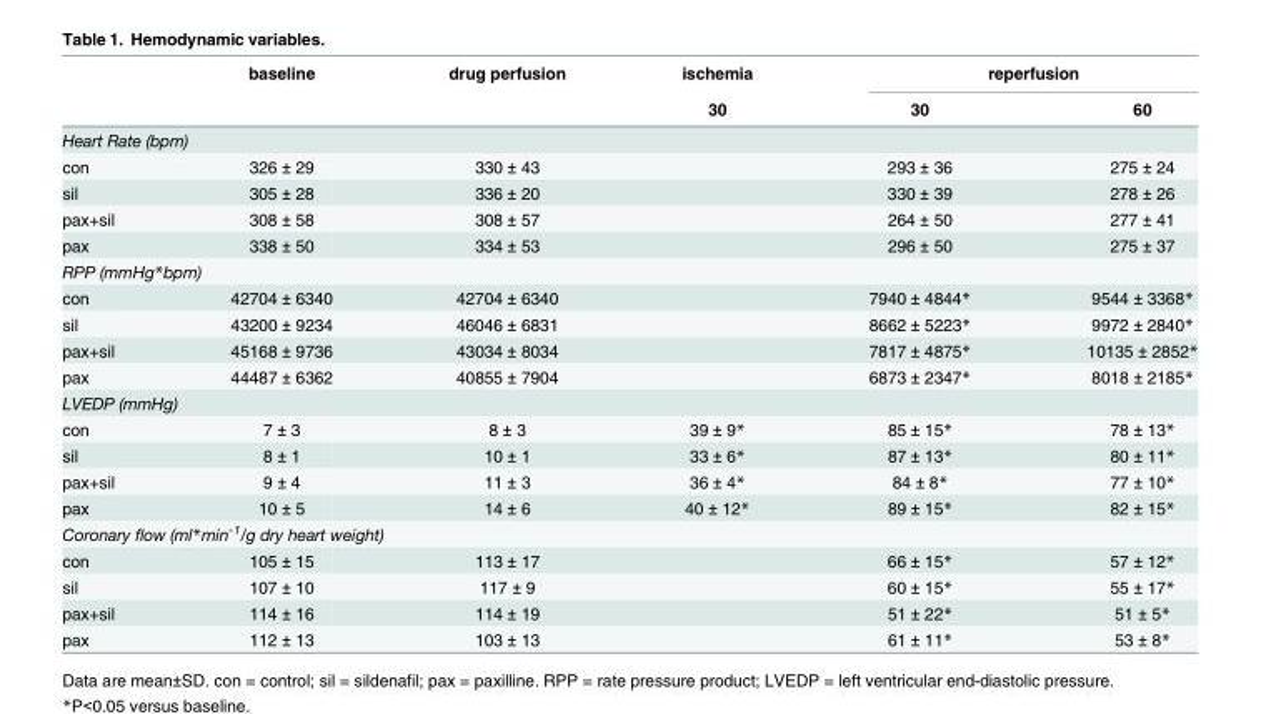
<table><thead><tr><td rowspan="2"></td><td rowspan="2">baseline</td><td rowspan="2">drug perfusion</td><td rowspan="2">ischemia 30</td><td colspan="2">reperfusion</td></tr><tr><td>30</td><td>60</td></tr></thead><tbody><tr><td colspan="6">Heart Rate (bpm)</td></tr><tr><td>con</td><td>326 ± 29</td><td>330 ± 43</td><td></td><td>293 ± 36</td><td>275 ± 24</td></tr><tr><td>sil</td><td>305 ± 28</td><td>336 ± 20</td><td></td><td>330 ± 39</td><td>278 ± 26</td></tr><tr><td>pax+sil</td><td>308 ± 58</td><td>308 ± 57</td><td></td><td>264 ± 50</td><td>277 ± 41</td></tr><tr><td>pax</td><td>338 ± 50</td><td>334 ± 53</td><td></td><td>296 ± 50</td><td>275 ± 37</td></tr><tr><td colspan="6">RPP (mmHg*bpm)</td></tr><tr><td>con</td><td>42704 ± 6340</td><td>42704 ± 6340</td><td></td><td>7940 ± 4844*</td><td>9544 ± 3368*</td></tr><tr><td>sil</td><td>43200 ± 9234</td><td>46046 ± 6831</td><td></td><td>8662 ± 5223*</td><td>9972 ± 2840*</td></tr><tr><td>pax+sil</td><td>45168 ± 9736</td><td>43034 ± 8034</td><td></td><td>7817 ± 4875*</td><td>10135 ± 2852*</td></tr><tr><td>pax</td><td>44487 ± 6362</td><td>40855 ± 7904</td><td></td><td>6873 ± 2347*</td><td>8018 ± 2185*</td></tr><tr><td colspan="6">LVEDP (mmHg)</td></tr><tr><td>con</td><td>7 ± 3</td><td>8 ± 3</td><td>39 ± 9*</td><td>85 ± 15*</td><td>78 ± 13*</td></tr><tr><td>sil</td><td>8 ± 1</td><td>10 ± 1</td><td>33 ± 6*</td><td>87 ± 13*</td><td>80 ± 11*</td></tr><tr><td>pax+sil</td><td>9 ± 4</td><td>11 ± 3</td><td>36 ± 4*</td><td>84 ± 8*</td><td>77 ± 10*</td></tr><tr><td>pax</td><td>10 ± 5</td><td>14 ± 6</td><td>40 ± 12*</td><td>89 ± 15*</td><td>82 ± 15*</td></tr><tr><td colspan="6">Coronary flow (ml*min<sup>-1</sup>/g dry heart weight)</td></tr><tr><td>con</td><td>105 ± 15</td><td>113 ± 17</td><td></td><td>66 ± 15*</td><td>57 ± 12*</td></tr><tr><td>sil</td><td>107 ± 10</td><td>117 ± 9</td><td></td><td>60 ± 15*</td><td>55 ± 17*</td></tr><tr><td>pax+sil</td><td>114 ± 16</td><td>114 ± 19</td><td></td><td>51 ± 22*</td><td>51 ± 5*</td></tr><tr><td>pax</td><td>112 ± 13</td><td>103 ± 13</td><td></td><td>61 ± 11*</td><td>53 ± 8*</td></tr></tbody></table>